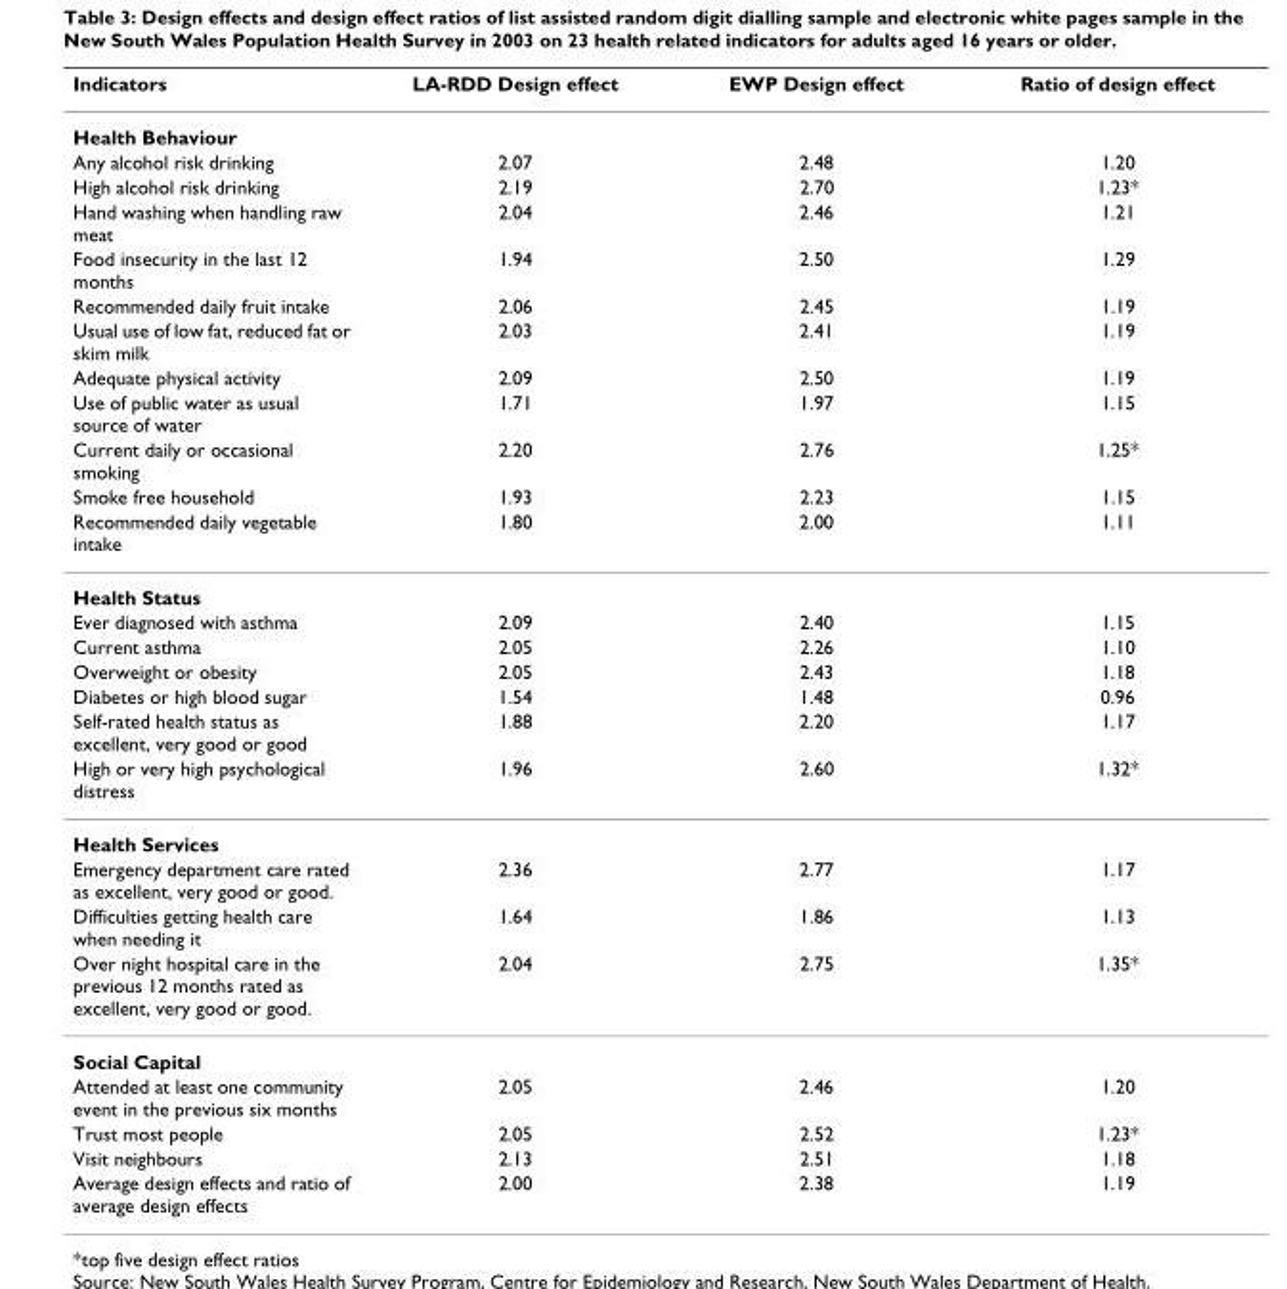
<table><thead><tr><td>Indicators</td><td>LA-RDD Design effect</td><td>EWP Design effect</td><td>Ratio of design effect</td></tr></thead><tbody><tr><td colspan="4">Health Behaviour</td></tr><tr><td>Any alcohol risk drinking</td><td>2.07</td><td>2.48</td><td>1.20</td></tr><tr><td>High alcohol risk drinking</td><td>2.19</td><td>2.70</td><td>1.23*</td></tr><tr><td>Hand washing when handling raw meat</td><td>2.04</td><td>2.46</td><td>1.21</td></tr><tr><td>Food insecurity in the last 12 months</td><td>1.94</td><td>2.50</td><td>1.29</td></tr><tr><td>Recommended daily fruit intake</td><td>2.06</td><td>2.45</td><td>1.19</td></tr><tr><td>Usual use of low fat, reduced fat or skim milk</td><td>2.03</td><td>2.41</td><td>1.19</td></tr><tr><td>Adequate physical activity</td><td>2.09</td><td>2.50</td><td>1.19</td></tr><tr><td>Use of public water as usual source of water</td><td>1.71</td><td>1.97</td><td>1.15</td></tr><tr><td>Current daily or occasional smoking</td><td>2.20</td><td>2.76</td><td>1.25*</td></tr><tr><td>Smoke free household</td><td>1.93</td><td>2.23</td><td>1.15</td></tr><tr><td>Recommended daily vegetable intake</td><td>1.80</td><td>2.00</td><td>1.11</td></tr><tr><td colspan="4">Health Status</td></tr><tr><td>Ever diagnosed with asthma</td><td>2.09</td><td>2.40</td><td>1.15</td></tr><tr><td>Current asthma</td><td>2.05</td><td>2.26</td><td>1.10</td></tr><tr><td>Overweight or obesity</td><td>2.05</td><td>2.43</td><td>1.18</td></tr><tr><td>Diabetes or high blood sugar</td><td>1.54</td><td>1.48</td><td>0.96</td></tr><tr><td>Self-rated health status as excellent, very good or good</td><td>1.88</td><td>2.20</td><td>1.17</td></tr><tr><td>High or very high psychological distress</td><td>1.96</td><td>2.60</td><td>1.32*</td></tr><tr><td colspan="4">Health Services</td></tr><tr><td>Emergency department care rated as excellent, very good or good.</td><td>2.36</td><td>2.77</td><td>1.17</td></tr><tr><td>Difficulties getting health care when needing it</td><td>1.64</td><td>1.86</td><td>1.13</td></tr><tr><td>Over night hospital care in the previous 12 months rated as excellent, very good or good.</td><td>2.04</td><td>2.75</td><td>1.35*</td></tr><tr><td colspan="4">Social Capital</td></tr><tr><td>Attended at least one community event in the previous six months</td><td>2.05</td><td>2.46</td><td>1.20</td></tr><tr><td>Trust most people</td><td>2.05</td><td>2.52</td><td>1.23*</td></tr><tr><td>Visit neighbours</td><td>2.13</td><td>2.51</td><td>1.18</td></tr><tr><td>Average design effects and ratio of average design effects</td><td>2.00</td><td>2.38</td><td>1.19</td></tr></tbody></table>